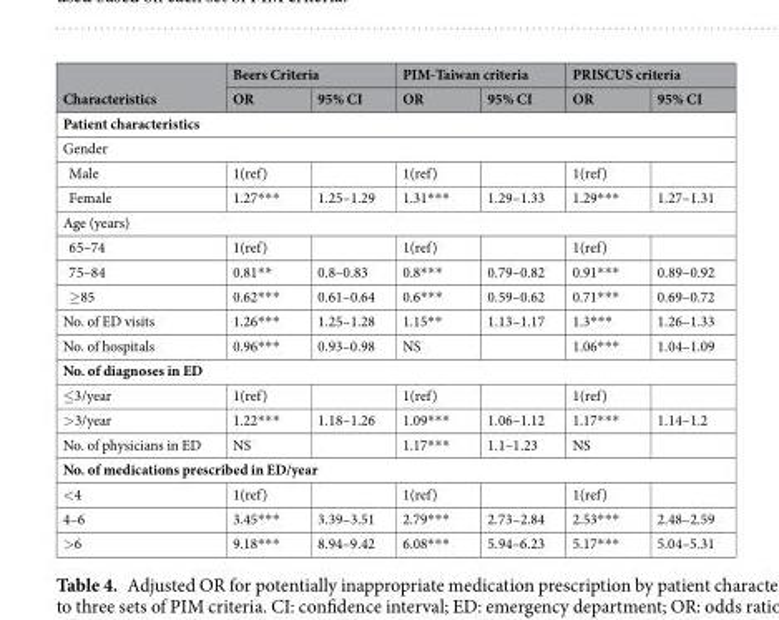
<table><thead><tr><td rowspan="2">Characteristics</td><td colspan="2">Beers Criteria</td><td colspan="2">PIM-Taiwan criteria</td><td colspan="2">PRISCUS criteria</td></tr><tr><td>OR</td><td>95% CI</td><td>OR</td><td>95% CI</td><td>OR</td><td>95% CI</td></tr></thead><tbody><tr><td colspan="7">Patient characteristics</td></tr><tr><td colspan="7">Gender</td></tr><tr><td>Male</td><td>1(ref)</td><td></td><td>1(ref)</td><td></td><td>1(ref)</td><td></td></tr><tr><td>Female</td><td>1.27***</td><td>1.25–1.29</td><td>1.31***</td><td>1.29–1.33</td><td>1.29***</td><td>1.27–1.31</td></tr><tr><td colspan="7">Age (years)</td></tr><tr><td>65–74</td><td>1(ref)</td><td></td><td>1(ref)</td><td></td><td>1(ref)</td><td></td></tr><tr><td>75–84</td><td>0.81**</td><td>0.8–0.83</td><td>0.8***</td><td>0.79–0.82</td><td>0.91***</td><td>0.89–0.92</td></tr><tr><td>≥85</td><td>0.62***</td><td>0.61–0.64</td><td>0.6***</td><td>0.59–0.62</td><td>0.71***</td><td>0.69–0.72</td></tr><tr><td>No. of ED visits</td><td>1.26***</td><td>1.25–1.28</td><td>1.15**</td><td>1.13–1.17</td><td>1.3***</td><td>1.26–1.33</td></tr><tr><td>No. of hospitals</td><td>0.96***</td><td>0.93–0.98</td><td>NS</td><td></td><td>1.06***</td><td>1.04–1.09</td></tr><tr><td colspan="7">No. of diagnoses in ED</td></tr><tr><td>≤3/year</td><td>1(ref)</td><td></td><td>1(ref)</td><td></td><td>1(ref)</td><td></td></tr><tr><td>&gt;3/year</td><td>1.22***</td><td>1.18–1.26</td><td>1.09***</td><td>1.06–1.12</td><td>1.17***</td><td>1.14–1.2</td></tr><tr><td>No. of physicians in ED</td><td>NS</td><td></td><td>1.17***</td><td>1.1–1.23</td><td>NS</td><td></td></tr><tr><td colspan="7">No. of medications prescribed in ED/year</td></tr><tr><td>&lt;4</td><td>1(ref)</td><td></td><td>1(ref)</td><td></td><td>1(ref)</td><td></td></tr><tr><td>4–6</td><td>3.45***</td><td>3.39–3.51</td><td>2.79***</td><td>2.73–2.84</td><td>2.53***</td><td>2.48–2.59</td></tr><tr><td>&gt;6</td><td>9.18***</td><td>8.94–9.42</td><td>6.08***</td><td>5.94–6.23</td><td>5.17***</td><td>5.04–5.31</td></tr></tbody></table>